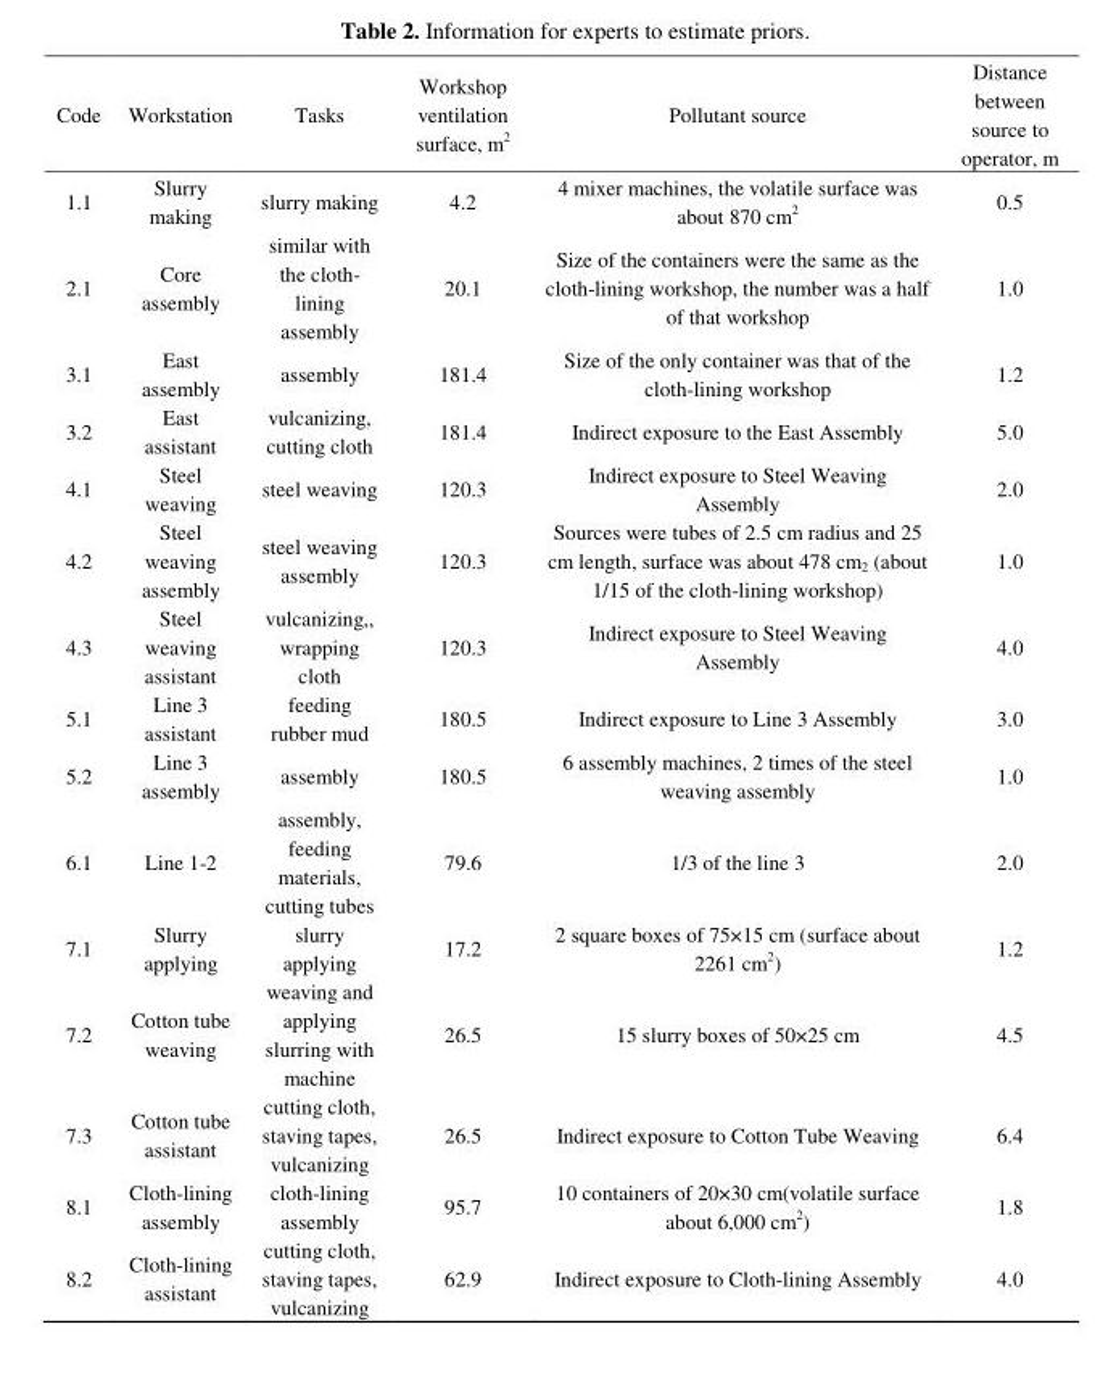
<table><thead><tr><td>Code</td><td>Workstation</td><td>Tasks</td><td>Workshop ventilation surface, m<sup>2</sup></td><td>Pollutant source</td><td>Distance between source to operator, m</td></tr></thead><tbody><tr><td>1.1</td><td>Slurry making</td><td>slurry making</td><td>4.2</td><td>4 mixer machines, the volatile surface was about 870 cm<sup>2</sup></td><td>0.5</td></tr><tr><td>2.1</td><td>Core assembly</td><td>similar with the cloth- lining assembly</td><td>20.1</td><td>Size of the containers were the same as the cloth-lining workshop, the number was a half of that workshop</td><td>1.0</td></tr><tr><td>3.1</td><td>East assembly</td><td>assembly</td><td>181.4</td><td>Size of the only container was that of the cloth-lining workshop</td><td>1.2</td></tr><tr><td>3.2</td><td>East assistant</td><td>vulcanizing, cutting cloth</td><td>181.4</td><td>Indirect exposure to the East Assembly</td><td>5.0</td></tr><tr><td>4.1</td><td>Steel weaving</td><td>steel weaving</td><td>120.3</td><td>Indirect exposure to Steel Weaving Assembly</td><td>2.0</td></tr><tr><td>4.2</td><td>Steel weaving assembly</td><td>steel weaving assembly</td><td>120.3</td><td>Sources were tubes of 2.5 cm radius and 25 cm length, surface was about 478 cm<sup>2</sup> (about 1/15 of the cloth-lining workshop)</td><td>1.0</td></tr><tr><td>4.3</td><td>Steel weaving assistant</td><td>vulcanizing,, wrapping cloth</td><td>120.3</td><td>Indirect exposure to Steel Weaving Assembly</td><td>4.0</td></tr><tr><td>5.1</td><td>Line 3 assistant</td><td>feeding rubber mud</td><td>180.5</td><td>Indirect exposure to Line 3 Assembly</td><td>3.0</td></tr><tr><td>5.2</td><td>Line 3 assembly</td><td>assembly</td><td>180.5</td><td>6 assembly machines, 2 times of the steel weaving assembly</td><td>1.0</td></tr><tr><td>6.1</td><td>Line 1-2</td><td>assembly, feeding materials, cutting tubes</td><td>79.6</td><td>1/3 of the line 3</td><td>2.0</td></tr><tr><td>7.1</td><td>Slurry applying</td><td>slurry applying</td><td>17.2</td><td>2 square boxes of 75×15 cm (surface about 2261 cm<sup>2</sup>)</td><td>1.2</td></tr><tr><td>7.2</td><td>Cotton tube weaving</td><td>weaving and applying slurring with machine</td><td>26.5</td><td>15 slurry boxes of 50×25 cm</td><td>4.5</td></tr><tr><td>7.3</td><td>Cotton tube assistant</td><td>cutting cloth, staving tapes, vulcanizing</td><td>26.5</td><td>Indirect exposure to Cotton Tube Weaving</td><td>6.4</td></tr><tr><td>8.1</td><td>Cloth-lining assembly</td><td>cloth-lining assembly</td><td>95.7</td><td>10 containers of 20×30 cm(volatile surface about 6,000 cm<sup>2</sup>)</td><td>1.8</td></tr><tr><td>8.2</td><td>Cloth-lining assistant</td><td>cutting cloth, staving tapes, vulcanizing</td><td>62.9</td><td>Indirect exposure to Cloth-lining Assembly</td><td>4.0</td></tr></tbody></table>